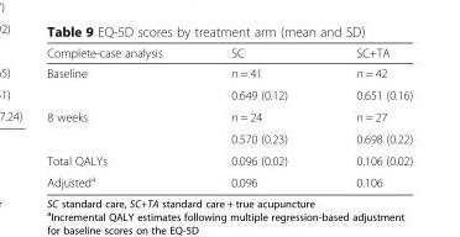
<table><thead><tr><td>Complete-case analysis</td><td>SC</td><td>SC+TA</td></tr></thead><tbody><tr><td rowspan="2">Baseline</td><td>n = 41</td><td>n = 42</td></tr><tr><td>0.649 (0.12)</td><td>0.651 (0.16)</td></tr><tr><td rowspan="2">8 weeks</td><td>n = 24</td><td>n = 27</td></tr><tr><td>0.570 (0.23)</td><td>0.698 (0.22)</td></tr><tr><td>Total QALYs</td><td>0.096 (0.02)</td><td>0.106 (0.02)</td></tr><tr><td>Adjusted<sup>a</sup></td><td>0.096</td><td>0.106</td></tr></tbody></table>